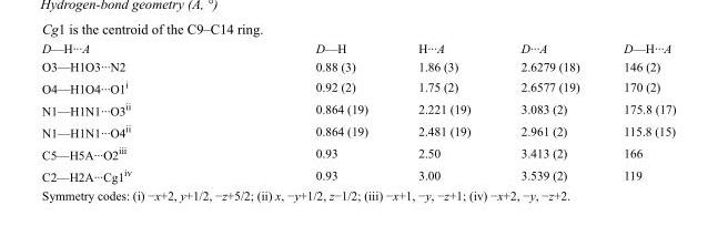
<table><tbody><tr><td>D—H···A</td><td>D—H</td><td>H···A</td><td>D···A</td><td>D—H···A</td></tr><tr><td>O3—H1O3···N2</td><td>0.88 (3)</td><td>1.86 (3)</td><td>2.6279 (18)</td><td>146 (2)</td></tr><tr><td>O4—H1O4···O1<sup>i</sup></td><td>0.92 (2)</td><td>1.75 (2)</td><td>2.6577 (19)</td><td>170 (2)</td></tr><tr><td>N1—H1N1···O3<sup>ii</sup></td><td>0.864 (19)</td><td>2.221 (19)</td><td>3.083 (2)</td><td>175.8 (17)</td></tr><tr><td>N1—H1N1···O4<sup>ii</sup></td><td>0.864 (19)</td><td>2.481 (19)</td><td>2.961 (2)</td><td>115.8 (15)</td></tr><tr><td>C5—H5A···O2<sup>iii</sup></td><td>0.93</td><td>2.50</td><td>3.413 (2)</td><td>166</td></tr><tr><td>C2—H2A···Cg1<sup>iv</sup></td><td>0.93</td><td>3.00</td><td>3.539 (2)</td><td>119</td></tr></tbody></table>